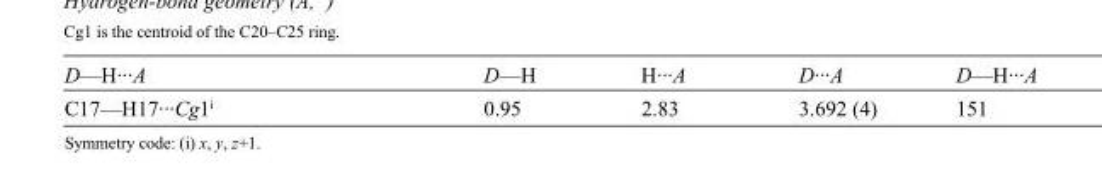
<table><tbody><tr><td>D—H···A</td><td>D—H</td><td>H···A</td><td>D···A</td><td>D—H···A</td></tr><tr><td>C17—H17···Cg1<sup>i</sup></td><td>0.95</td><td>2.83</td><td>3.692 (4)</td><td>151</td></tr></tbody></table>